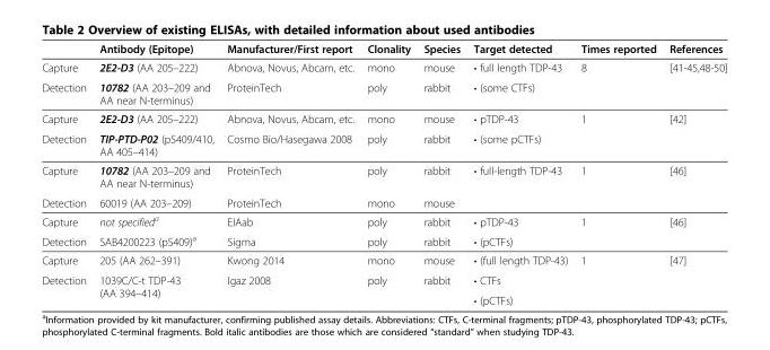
<table><thead><tr><td></td><td>Antibody (Epitope)</td><td>Manufacturer/First report</td><td>Clonality</td><td>Species</td><td>Target detected</td><td>Times reported</td><td>References</td></tr></thead><tbody><tr><td>Capture</td><td>2E2-D3 (AA 205–222)</td><td>Abnova, Novus, Abcam, etc.</td><td>mono</td><td>mouse</td><td>• full length TDP-43</td><td rowspan="2">8</td><td rowspan="2">[41-45,48-50]</td></tr><tr><td>Detection</td><td>10782 (AA 203–209 and AA near N-terminus)</td><td>ProteinTech</td><td>poly</td><td>rabbit</td><td>• (some CTFs)</td></tr><tr><td>Capture</td><td>2E2-D3 (AA 205–222)</td><td>Abnova, Novus, Abcam, etc.</td><td>mono</td><td>mouse</td><td>• pTDP-43</td><td rowspan="2">1</td><td rowspan="2">[42]</td></tr><tr><td>Detection</td><td>TIP-PTD-P02 (pS409/410, AA 405–414)</td><td>Cosmo Bio/Hasegawa 2008</td><td>poly</td><td>rabbit</td><td>• (some pCTFs)</td></tr><tr><td>Capture</td><td>10782 (AA 203–209 and AA near N-terminus)</td><td>ProteinTech</td><td>poly</td><td>rabbit</td><td rowspan="2">• full-length TDP-43</td><td rowspan="2">1</td><td rowspan="2">[46]</td></tr><tr><td>Detection</td><td>60019 (AA 203–209)</td><td>ProteinTech</td><td>mono</td><td>mouse</td></tr><tr><td>Capture</td><td>not specified<sup>a</sup></td><td>EIAab</td><td>poly</td><td>rabbit</td><td>• pTDP-43</td><td rowspan="2">1</td><td rowspan="2">[46]</td></tr><tr><td>Detection</td><td>SAB4200223 (pS409)<sup>a</sup></td><td>Sigma</td><td>poly</td><td>rabbit</td><td>• (pCTFs)</td></tr><tr><td>Capture</td><td>205 (AA 262–391)</td><td>Kwong 2014</td><td>mono</td><td>mouse</td><td>• (full length TDP-43)</td><td rowspan="3">1</td><td rowspan="3">[47]</td></tr><tr><td rowspan="2">Detection</td><td rowspan="2">1039C/C-t TDP-43 (AA 394–414)</td><td rowspan="2">Igaz 2008</td><td rowspan="2">poly</td><td rowspan="2">rabbit</td><td>• CTFs</td></tr><tr><td>• (pCTFs)</td></tr></tbody></table>